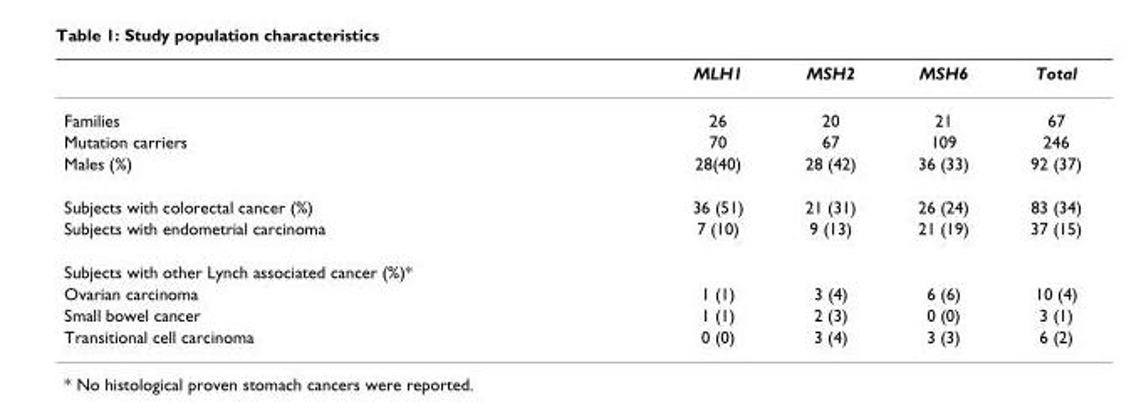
<table><thead><tr><td></td><td>MLH1</td><td>MSH2</td><td>MSH6</td><td>Total</td></tr></thead><tbody><tr><td>Families</td><td>26</td><td>20</td><td>21</td><td>67</td></tr><tr><td>Mutation carriers</td><td>70</td><td>67</td><td>109</td><td>246</td></tr><tr><td>Males (%)</td><td>28(40)</td><td>28 (42)</td><td>36 (33)</td><td>92 (37)</td></tr><tr><td>Subjects with colorectal cancer (%)</td><td>36 (51)</td><td>21 (31)</td><td>26 (24)</td><td>83 (34)</td></tr><tr><td>Subjects with endometrial carcinoma</td><td>7 (10)</td><td>9 (13)</td><td>21 (19)</td><td>37 (15)</td></tr><tr><td colspan="5">Subjects with other Lynch associated cancer (%)*</td></tr><tr><td>Ovarian carcinoma</td><td>1 (1)</td><td>3 (4)</td><td>6 (6)</td><td>10 (4)</td></tr><tr><td>Small bowel cancer</td><td>1 (1)</td><td>2 (3)</td><td>0 (0)</td><td>3 (1)</td></tr><tr><td>Transitional cell carcinoma</td><td>0 (0)</td><td>3 (4)</td><td>3 (3)</td><td>6 (2)</td></tr></tbody></table>